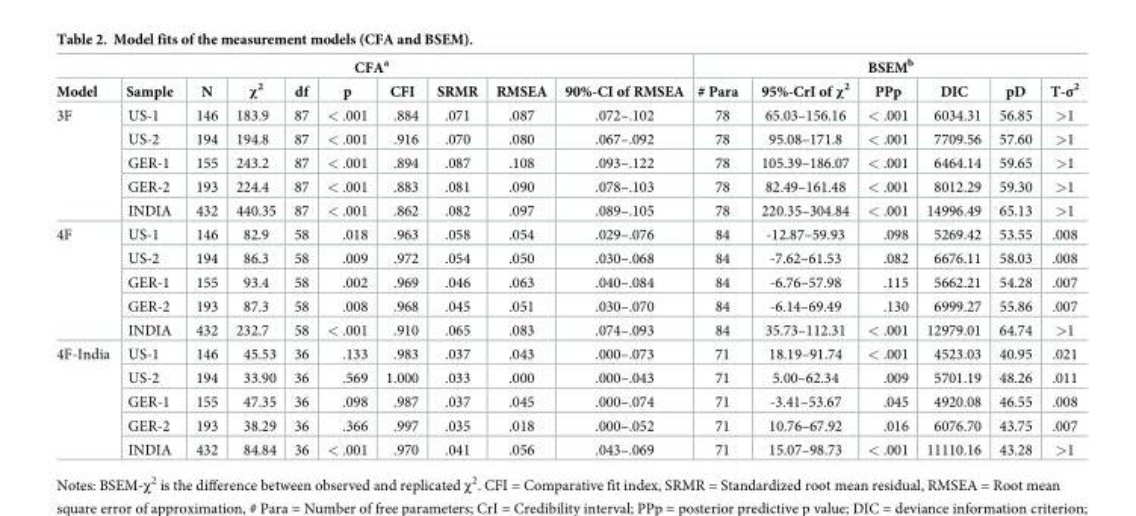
<table><thead><tr><td colspan="10">CFA<sup>a</sup></td><td colspan="6">BSEM<sup>b</sup></td></tr><tr><td>Model</td><td>Sample</td><td>N</td><td>χ<sup>2</sup></td><td>df</td><td>p</td><td>CFI</td><td>SRMR</td><td>RMSEA</td><td>90%-CI of RMSEA</td><td># Para</td><td>95%-CrI of χ<sup>2</sup></td><td>PPp</td><td>DIC</td><td>pD</td><td>T-σ<sup>2</sup></td></tr></thead><tbody><tr><td rowspan="5">3F</td><td>US-1</td><td>146</td><td>183.9</td><td>87</td><td>&lt; .001</td><td>.884</td><td>.071</td><td>.087</td><td>.072–.102</td><td>78</td><td>65.03–156.16</td><td>&lt; .001</td><td>6034.31</td><td>56.85</td><td>&gt;1</td></tr><tr><td>US-2</td><td>194</td><td>194.8</td><td>87</td><td>&lt; .001</td><td>.916</td><td>.070</td><td>.080</td><td>.067–.092</td><td>78</td><td>95.08–171.8</td><td>&lt; .001</td><td>7709.56</td><td>57.60</td><td>&gt;1</td></tr><tr><td>GER-1</td><td>155</td><td>243.2</td><td>87</td><td>&lt; .001</td><td>.894</td><td>.087</td><td>.108</td><td>.093–.122</td><td>78</td><td>105.39–186.07</td><td>&lt; .001</td><td>6464.14</td><td>59.65</td><td>&gt;1</td></tr><tr><td>GER-2</td><td>193</td><td>224.4</td><td>87</td><td>&lt; .001</td><td>.883</td><td>.081</td><td>.090</td><td>.078–.103</td><td>78</td><td>82.49–161.48</td><td>&lt; .001</td><td>8012.29</td><td>59.30</td><td>&gt;1</td></tr><tr><td>INDIA</td><td>432</td><td>440.35</td><td>87</td><td>&lt; .001</td><td>.862</td><td>.082</td><td>.097</td><td>.089–.105</td><td>78</td><td>220.35–304.84</td><td>&lt; .001</td><td>14996.49</td><td>65.13</td><td>&gt;1</td></tr><tr><td rowspan="5">4F</td><td>US-1</td><td>146</td><td>82.9</td><td>58</td><td>.018</td><td>.963</td><td>.058</td><td>.054</td><td>.029–.076</td><td>84</td><td>-12.87–59.93</td><td>.098</td><td>5269.42</td><td>53.55</td><td>.008</td></tr><tr><td>US-2</td><td>194</td><td>86.3</td><td>58</td><td>.009</td><td>.972</td><td>.054</td><td>.050</td><td>.030–.068</td><td>84</td><td>-7.62–61.53</td><td>.082</td><td>6676.11</td><td>58.03</td><td>.008</td></tr><tr><td>GER-1</td><td>155</td><td>93.4</td><td>58</td><td>.002</td><td>.969</td><td>.046</td><td>.063</td><td>.040–.084</td><td>84</td><td>-6.76–57.98</td><td>.115</td><td>5662.21</td><td>54.28</td><td>.007</td></tr><tr><td>GER-2</td><td>193</td><td>87.3</td><td>58</td><td>.008</td><td>.968</td><td>.045</td><td>.051</td><td>.030–.070</td><td>84</td><td>-6.14–69.49</td><td>.130</td><td>6999.27</td><td>55.86</td><td>.007</td></tr><tr><td>INDIA</td><td>432</td><td>232.7</td><td>58</td><td>&lt; .001</td><td>.910</td><td>.065</td><td>.083</td><td>.074–.093</td><td>84</td><td>35.73–112.31</td><td>&lt; .001</td><td>12979.01</td><td>64.74</td><td>&gt;1</td></tr><tr><td rowspan="5">4F-India</td><td>US-1</td><td>146</td><td>45.53</td><td>36</td><td>.133</td><td>.983</td><td>.037</td><td>.043</td><td>.000–.073</td><td>71</td><td>18.19–91.74</td><td>&lt; .001</td><td>4523.03</td><td>40.95</td><td>.021</td></tr><tr><td>US-2</td><td>194</td><td>33.90</td><td>36</td><td>.569</td><td>1.000</td><td>.033</td><td>.000</td><td>.000–.043</td><td>71</td><td>5.00–62.34</td><td>.009</td><td>5701.19</td><td>48.26</td><td>.011</td></tr><tr><td>GER-1</td><td>155</td><td>47.35</td><td>36</td><td>.098</td><td>.987</td><td>.037</td><td>.045</td><td>.000–.074</td><td>71</td><td>-3.41–53.67</td><td>.045</td><td>4920.08</td><td>46.55</td><td>.008</td></tr><tr><td>GER-2</td><td>193</td><td>38.29</td><td>36</td><td>.366</td><td>.997</td><td>.035</td><td>.018</td><td>.000–.052</td><td>71</td><td>10.76–67.92</td><td>.016</td><td>6076.70</td><td>43.75</td><td>.007</td></tr><tr><td>INDIA</td><td>432</td><td>84.84</td><td>36</td><td>&lt; .001</td><td>.970</td><td>.041</td><td>.056</td><td>.043–.069</td><td>71</td><td>15.07–98.73</td><td>&lt; .001</td><td>11110.16</td><td>43.28</td><td>&gt;1</td></tr></tbody></table>